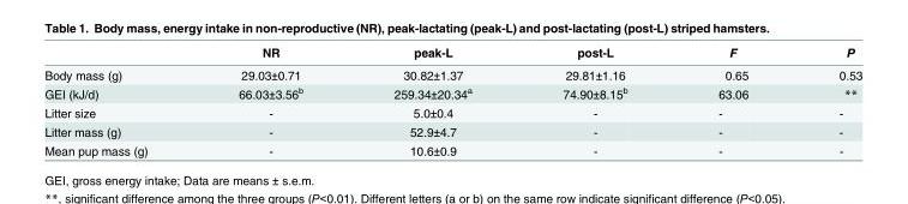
<table><thead><tr><td></td><td>NR</td><td>peak-L</td><td>post-L</td><td>F</td><td>P</td></tr></thead><tbody><tr><td>Body mass (g)</td><td>29.03±0.71</td><td>30.82±1.37</td><td>29.81±1.16</td><td>0.65</td><td>0.53</td></tr><tr><td>GEI (kJ/d)</td><td>66.03±3.56<sup>b</sup></td><td>259.34±20.34<sup>a</sup></td><td>74.90±8.15<sup>b</sup></td><td>63.06</td><td>**</td></tr><tr><td>Litter size</td><td>-</td><td>5.0±0.4</td><td>-</td><td>-</td><td>-</td></tr><tr><td>Litter mass (g)</td><td>-</td><td>52.9±4.7</td><td>-</td><td>-</td><td>-</td></tr><tr><td>Mean pup mass (g)</td><td>-</td><td>10.6±0.9</td><td>-</td><td>-</td><td>-</td></tr></tbody></table>